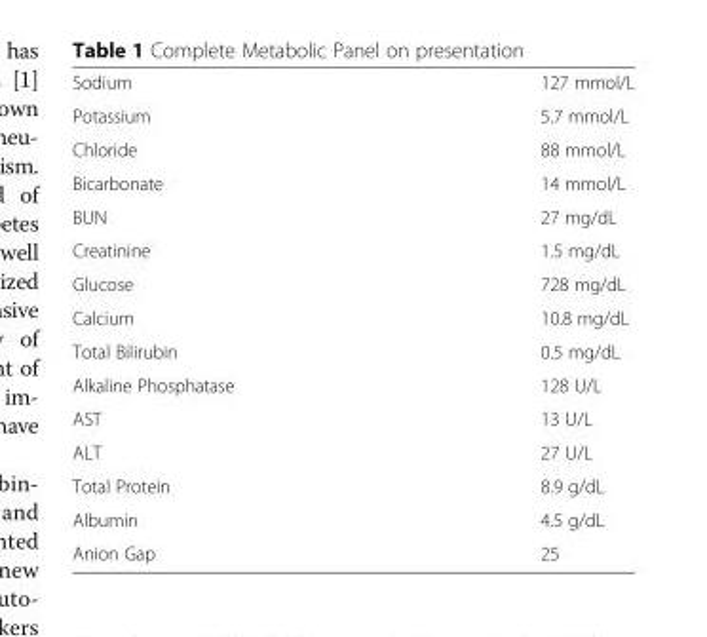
<table><tbody><tr><td>Sodium</td><td>127 mmol/L</td></tr><tr><td>Potassium</td><td>5.7 mmol/L</td></tr><tr><td>Chloride</td><td>88 mmol/L</td></tr><tr><td>Bicarbonate</td><td>14 mmol/L</td></tr><tr><td>BUN</td><td>27 mg/dL</td></tr><tr><td>Creatinine</td><td>1.5 mg/dL</td></tr><tr><td>Glucose</td><td>728 mg/dL</td></tr><tr><td>Calcium</td><td>10.8 mg/dL</td></tr><tr><td>Total Bilirubin</td><td>0.5 mg/dL</td></tr><tr><td>Alkaline Phosphatase</td><td>128 U/L</td></tr><tr><td>AST</td><td>13 U/L</td></tr><tr><td>ALT</td><td>27 U/L</td></tr><tr><td>Total Protein</td><td>8.9 g/dL</td></tr><tr><td>Albumin</td><td>4.5 g/dL</td></tr><tr><td>Anion Gap</td><td>25</td></tr></tbody></table>